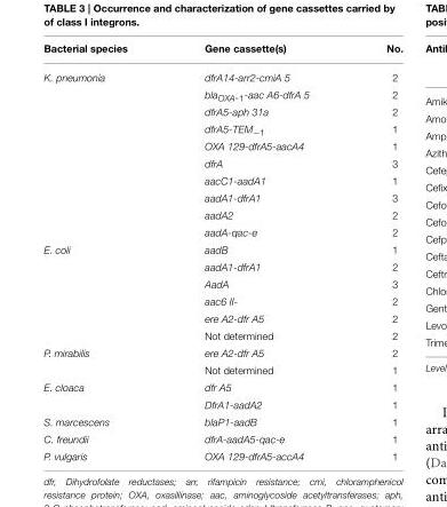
<table><thead><tr><td>Bacterial species</td><td>Gene cassette(s)</td><td>No.</td></tr></thead><tbody><tr><td rowspan="10">K. pneumonia</td><td>dfrA14-arr2-cmiA 5</td><td>2</td></tr><tr><td>bla<sub>OXA-1</sub>-aac A6-dfrA 5</td><td>2</td></tr><tr><td>dfrA5-aph 31a</td><td>2</td></tr><tr><td>dfrA5-TEM<sub>−1</sub></td><td>1</td></tr><tr><td>OXA 129-dfrA5-aacA4</td><td>1</td></tr><tr><td>dfrA</td><td>3</td></tr><tr><td>aacC1-aadA1</td><td>1</td></tr><tr><td>aadA1-dfrA1</td><td>3</td></tr><tr><td>aadA2</td><td>2</td></tr><tr><td>aadA-qac-e</td><td>2</td></tr><tr><td rowspan="6">E. coli</td><td>aadB</td><td>1</td></tr><tr><td>aadA1-dfrA1</td><td>2</td></tr><tr><td>AadA</td><td>3</td></tr><tr><td>aac6 II-</td><td>2</td></tr><tr><td>ere A2-dfr A5</td><td>2</td></tr><tr><td>Not determined</td><td>2</td></tr><tr><td rowspan="2">P. mirabilis</td><td>ere A2-dfr A5</td><td>2</td></tr><tr><td>Not determined</td><td>1</td></tr><tr><td rowspan="2">E. cloaca</td><td>dfr A5</td><td>1</td></tr><tr><td>DfrA1-aadA2</td><td>1</td></tr><tr><td>S. marcescens</td><td>blaP1-aadB</td><td>1</td></tr><tr><td>C. freundii</td><td>dfrA-aadA5-qac-e</td><td>1</td></tr><tr><td>P. vulgaris</td><td>OXA 129-dfrA5-accA4</td><td>1</td></tr></tbody></table>